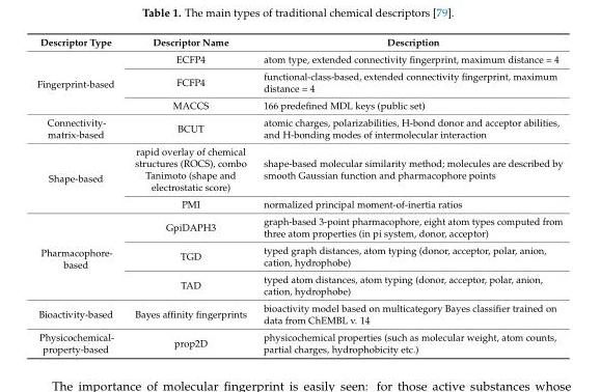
<table><thead><tr><td>Descriptor Type</td><td>Descriptor Name</td><td>Description</td></tr></thead><tbody><tr><td rowspan="3">Fingerprint-based</td><td>ECFP4</td><td>atom type, extended connectivity fingerprint, maximum distance = 4</td></tr><tr><td>FCFP4</td><td>functional-class-based, extended connectivity fingerprint, maximum distance = 4</td></tr><tr><td>MACCS</td><td>166 predefined MDL keys (public set)</td></tr><tr><td>Connectivity- matrix-based</td><td>BCUT</td><td>atomic charges, polarizabilities, H-bond donor and acceptor abilities, and H-bonding modes of intermolecular interaction</td></tr><tr><td rowspan="2">Shape-based</td><td>rapid overlay of chemical structures (ROCS), combo Tanimoto (shape and electrostatic score)</td><td>shape-based molecular similarity method; molecules are described by smooth Gaussian function and pharmacophore points</td></tr><tr><td>PMI</td><td>normalized principal moment-of-inertia ratios</td></tr><tr><td rowspan="3">Pharmacophore- based</td><td>GpiDAPH3</td><td>graph-based 3-point pharmacophore, eight atom types computed from three atom properties (in pi system, donor, acceptor)</td></tr><tr><td>TGD</td><td>typed graph distances, atom typing (donor, acceptor, polar, anion, cation, hydrophobe)</td></tr><tr><td>TAD</td><td>typed atom distances, atom typing (donor, acceptor, polar, anion, cation, hydrophobe)</td></tr><tr><td>Bioactivity-based</td><td>Bayes affinity fingerprints</td><td>bioactivity model based on multicategory Bayes classifier trained on data from ChEMBL v. 14</td></tr><tr><td>Physicochemical- property-based</td><td>prop2D</td><td>physicochemical properties (such as molecular weight, atom counts, partial charges, hydrophobicity etc.)</td></tr></tbody></table>